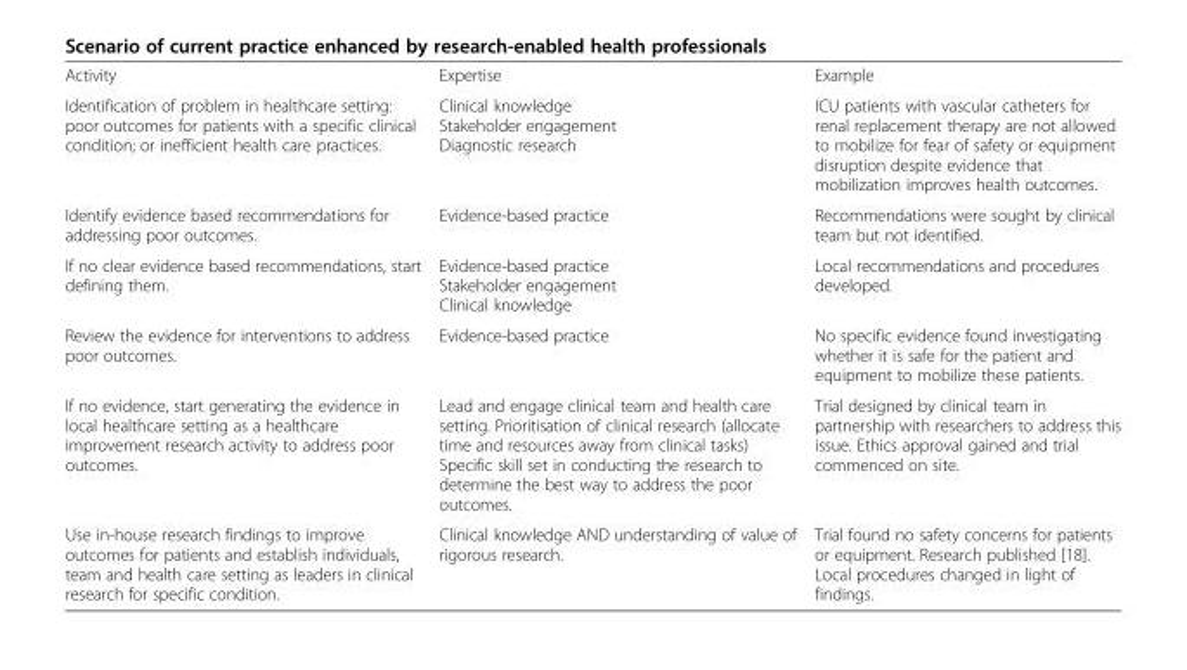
<table><tbody><tr><td>Activity</td><td>Expertise</td><td>Example</td></tr><tr><td>Identification of problem in healthcare setting: poor outcomes for patients with a specific clinical condition; or inefficient health care practices.</td><td>Clinical knowledge Stakeholder engagement Diagnostic research</td><td>ICU patients with vascular catheters for renal replacement therapy are not allowed to mobilize for fear of safety or equipment disruption despite evidence that mobilization improves health outcomes.</td></tr><tr><td>Identify evidence based recommendations for addressing poor outcomes.</td><td>Evidence-based practice</td><td>Recommendations were sought by clinical team but not identified.</td></tr><tr><td>If no clear evidence based recommendations, start defining them.</td><td>Evidence-based practice Stakeholder engagement Clinical knowledge</td><td>Local recommendations and procedures developed.</td></tr><tr><td>Review the evidence for interventions to address poor outcomes.</td><td>Evidence-based practice</td><td>No specific evidence found investigating whether it is safe for the patient and equipment to mobilize these patients.</td></tr><tr><td>If no evidence, start generating the evidence in local healthcare setting as a healthcare improvement research activity to address poor outcomes.</td><td>Lead and engage clinical team and health care setting. Prioritisation of clinical research (allocate time and resources away from clinical tasks) Specific skill set in conducting the research to determine the best way to address the poor outcomes.</td><td>Trial designed by clinical team in partnership with researchers to address this issue. Ethics approval gained and trial commenced on site.</td></tr><tr><td>Use in-house research findings to improve outcomes for patients and establish individuals, team and health care setting as leaders in clinical research for specific condition.</td><td>Clinical knowledge AND understanding of value of rigorous research.</td><td>Trial found no safety concerns for patients or equipment. Research published [18]. Local procedures changed in light of findings.</td></tr></tbody></table>